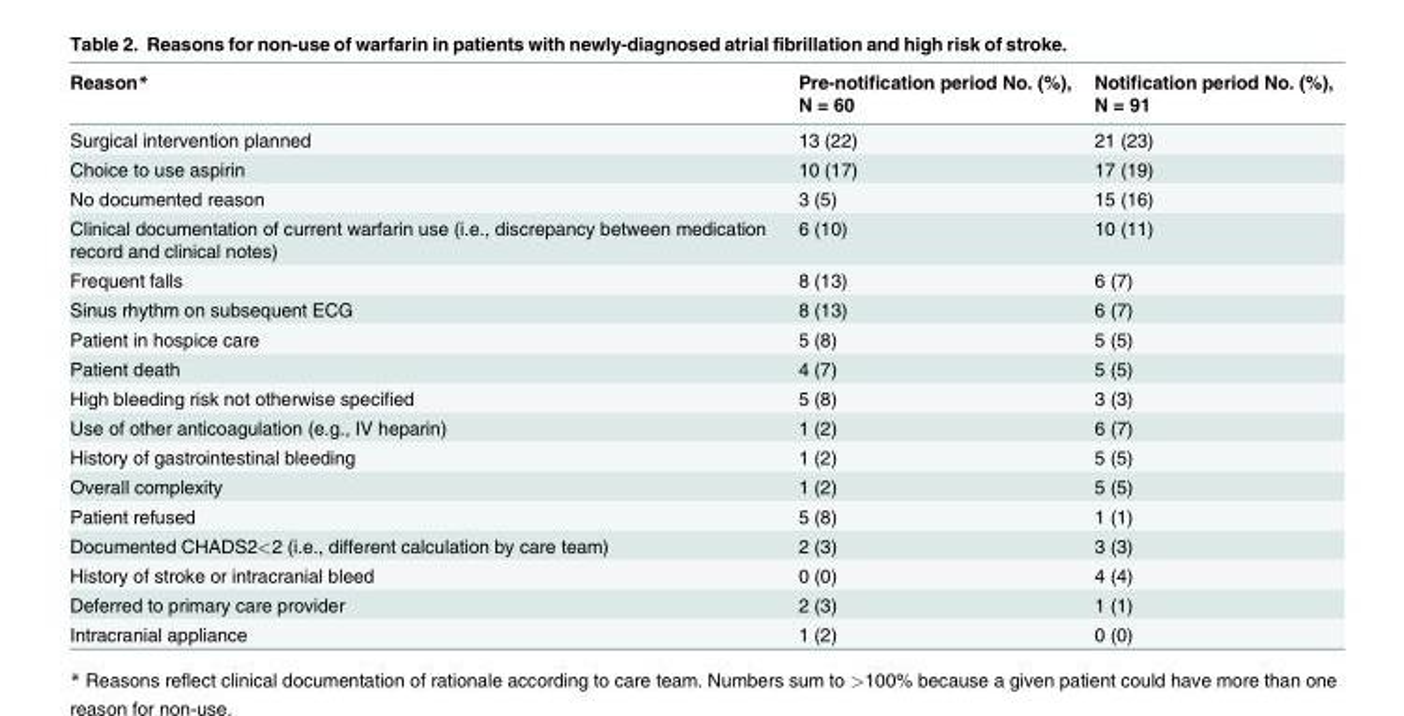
<table><thead><tr><td>Reason*</td><td>Pre-notification period No. (%), N = 60</td><td>Notification period No. (%), N = 91</td></tr></thead><tbody><tr><td>Surgical intervention planned</td><td>13 (22)</td><td>21 (23)</td></tr><tr><td>Choice to use aspirin</td><td>10 (17)</td><td>17 (19)</td></tr><tr><td>No documented reason</td><td>3 (5)</td><td>15 (16)</td></tr><tr><td>Clinical documentation of current warfarin use (i.e., discrepancy between medication record and clinical notes)</td><td>6 (10)</td><td>10 (11)</td></tr><tr><td>Frequent falls</td><td>8 (13)</td><td>6 (7)</td></tr><tr><td>Sinus rhythm on subsequent ECG</td><td>8 (13)</td><td>6 (7)</td></tr><tr><td>Patient in hospice care</td><td>5 (8)</td><td>5 (5)</td></tr><tr><td>Patient death</td><td>4 (7)</td><td>5 (5)</td></tr><tr><td>High bleeding risk not otherwise specified</td><td>5 (8)</td><td>3 (3)</td></tr><tr><td>Use of other anticoagulation (e.g., IV heparin)</td><td>1 (2)</td><td>6 (7)</td></tr><tr><td>History of gastrointestinal bleeding</td><td>1 (2)</td><td>5 (5)</td></tr><tr><td>Overall complexity</td><td>1 (2)</td><td>5 (5)</td></tr><tr><td>Patient refused</td><td>5 (8)</td><td>1 (1)</td></tr><tr><td>Documented CHADS2&lt;2 (i.e., different calculation by care team)</td><td>2 (3)</td><td>3 (3)</td></tr><tr><td>History of stroke or intracranial bleed</td><td>0 (0)</td><td>4 (4)</td></tr><tr><td>Deferred to primary care provider</td><td>2 (3)</td><td>1 (1)</td></tr><tr><td>Intracranial appliance</td><td>1 (2)</td><td>0 (0)</td></tr></tbody></table>